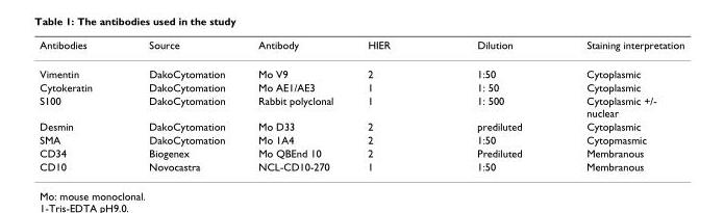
<table><thead><tr><td>Antibodies</td><td>Source</td><td>Antibody</td><td>HIER</td><td>Dilution</td><td>Staining interpretation</td></tr></thead><tbody><tr><td>Vimentin</td><td>DakoCytomation</td><td>Mo V9</td><td>2</td><td>1:50</td><td>Cytoplasmic</td></tr><tr><td>Cytokeratin</td><td>DakoCytomation</td><td>Mo AE1/AE3</td><td>1</td><td>1: 50</td><td>Cytoplasmic</td></tr><tr><td>S100</td><td>DakoCytomation</td><td>Rabbit polyclonal</td><td>1</td><td>1: 500</td><td>Cytoplasmic +/- nuclear</td></tr><tr><td>Desmin</td><td>DakoCytomation</td><td>Mo D33</td><td>2</td><td>prediluted</td><td>Cytoplasmic</td></tr><tr><td>SMA</td><td>DakoCytomation</td><td>Mo 1A4</td><td>2</td><td>1:50</td><td>Cytopmasmic</td></tr><tr><td>CD34</td><td>Biogenex</td><td>Mo QBEnd 10</td><td>2</td><td>Prediluted</td><td>Membranous</td></tr><tr><td>CD10</td><td>Novocastra</td><td>NCL-CD10-270</td><td>1</td><td>1:50</td><td>Membranous</td></tr></tbody></table>